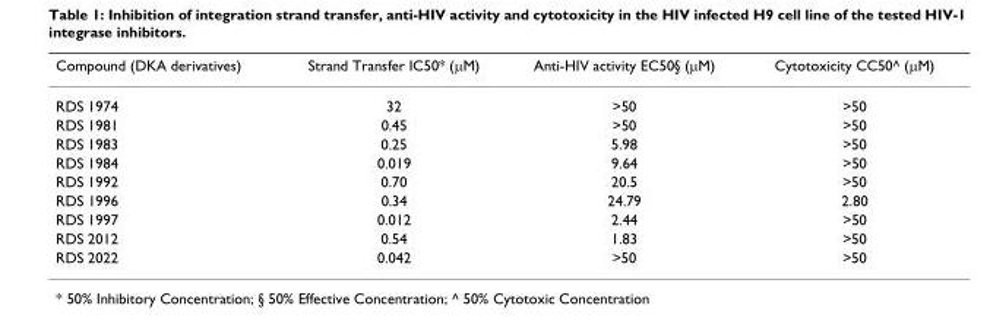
<table><thead><tr><td>Compound (DKA derivatives)</td><td>Strand Transfer IC50* (µM)</td><td>Anti-HIV activity EC50§ (µM)</td><td>Cytotoxicity CC50^ (µM)</td></tr></thead><tbody><tr><td>RDS 1974</td><td>32</td><td>&gt;50</td><td>&gt;50</td></tr><tr><td>RDS 1981</td><td>0.45</td><td>&gt;50</td><td>&gt;50</td></tr><tr><td>RDS 1983</td><td>0.25</td><td>5.98</td><td>&gt;50</td></tr><tr><td>RDS 1984</td><td>0.019</td><td>9.64</td><td>&gt;50</td></tr><tr><td>RDS 1992</td><td>0.70</td><td>20.5</td><td>&gt;50</td></tr><tr><td>RDS 1996</td><td>0.34</td><td>24.79</td><td>2.80</td></tr><tr><td>RDS 1997</td><td>0.012</td><td>2.44</td><td>&gt;50</td></tr><tr><td>RDS 2012</td><td>0.54</td><td>1.83</td><td>&gt;50</td></tr><tr><td>RDS 2022</td><td>0.042</td><td>&gt;50</td><td>&gt;50</td></tr></tbody></table>